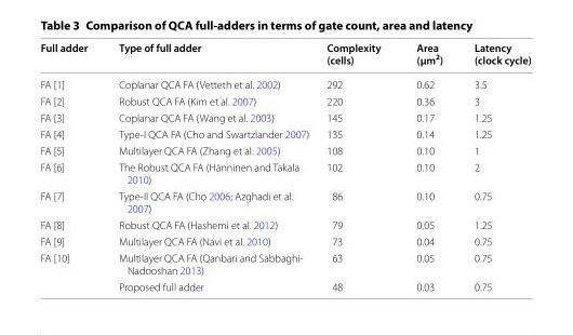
<table><thead><tr><td>Full adder</td><td>Type of full adder</td><td>Complexity (cells)</td><td>Area (μm<sup>2</sup>)</td><td>Latency (clock cycle)</td></tr></thead><tbody><tr><td>FA [1]</td><td>Coplanar QCA FA (Vetteth et al. 2002)</td><td>292</td><td>0.62</td><td>3.5</td></tr><tr><td>FA [2]</td><td>Robust QCA FA (Kim et al. 2007)</td><td>220</td><td>0.36</td><td>3</td></tr><tr><td>FA [3]</td><td>Coplanar QCA FA (Wang et al. 2003)</td><td>145</td><td>0.17</td><td>1.25</td></tr><tr><td>FA [4]</td><td>Type-I QCA FA (Cho and Swartzlander 2007)</td><td>135</td><td>0.14</td><td>1.25</td></tr><tr><td>FA [5]</td><td>Multilayer QCA FA (Zhang et al. 2005)</td><td>108</td><td>0.10</td><td>1</td></tr><tr><td>FA [6]</td><td>The Robust QCA FA (Hänninen and Takala 2010)</td><td>102</td><td>0.10</td><td>2</td></tr><tr><td>FA [7]</td><td>Type-II QCA FA (Cho 2006; Azghadi et al. 2007)</td><td>86</td><td>0.10</td><td>0.75</td></tr><tr><td>FA [8]</td><td>Robust QCA FA (Hashemi et al. 2012)</td><td>79</td><td>0.05</td><td>1.25</td></tr><tr><td>FA [9]</td><td>Multilayer QCA FA (Navi et al. 2010)</td><td>73</td><td>0.04</td><td>0.75</td></tr><tr><td rowspan="2">FA [10]</td><td>Multilayer QCA FA (Qanbari and Sabbaghi- Nadooshan 2013)</td><td>63</td><td>0.05</td><td>0.75</td></tr><tr><td>Proposed full adder</td><td>48</td><td>0.03</td><td>0.75</td></tr></tbody></table>